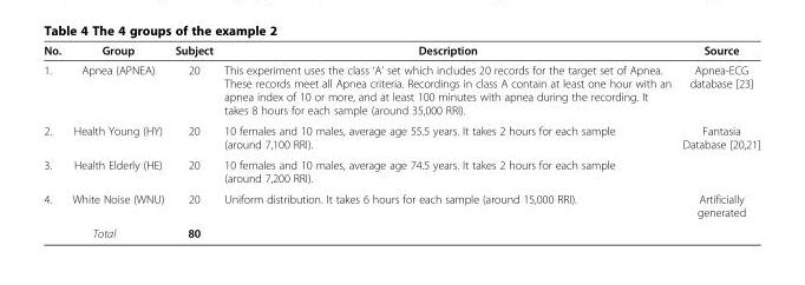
<table><thead><tr><td>No.</td><td>Group</td><td>Subject</td><td>Description</td><td>Source</td></tr></thead><tbody><tr><td>1.</td><td>Apnea (APNEA)</td><td>20</td><td>This experiment uses the class ‘A’ set which includes 20 records for the target set of Apnea. These records meet all Apnea criteria. Recordings in class A contain at least one hour with an apnea index of 10 or more, and at least 100 minutes with apnea during the recording. It takes 8 hours for each sample (around 35,000 RRI).</td><td>Apnea-ECG database [23]</td></tr><tr><td>2.</td><td>Health Young (HY)</td><td>20</td><td>10 females and 10 males, average age 55.5 years. It takes 2 hours for each sample (around 7,100 RRI).</td><td rowspan="2">Fantasia Database [20,21]</td></tr><tr><td>3.</td><td>Health Elderly (HE)</td><td>20</td><td>10 females and 10 males, average age 74.5 years. It takes 2 hours for each sample (around 7,200 RRI).</td></tr><tr><td rowspan="2">4.</td><td>White Noise (WNU)</td><td>20</td><td>Uniform distribution. It takes 6 hours for each sample (around 15,000 RRI).</td><td>Artificially generated</td></tr><tr><td>Total</td><td>80</td><td></td><td></td></tr></tbody></table>